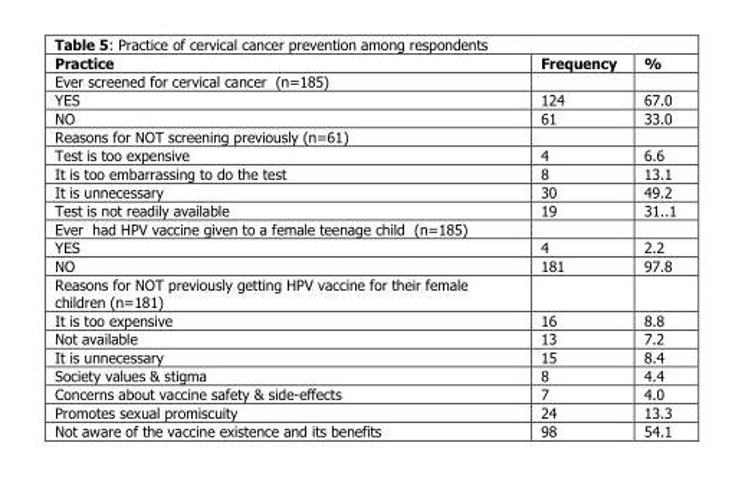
<table><thead><tr><td>Practice</td><td>Frequency</td><td>%</td></tr></thead><tbody><tr><td colspan="3">Ever screened for cervical cancer (n=185)</td></tr><tr><td>YES</td><td>124</td><td>67.0</td></tr><tr><td>NO</td><td>61</td><td>33.0</td></tr><tr><td colspan="3">Reasons for NOT screening previously (n=61)</td></tr><tr><td>Test is too expensive</td><td>4</td><td>6.6</td></tr><tr><td>It is too embarrassing to do the test</td><td>8</td><td>13.1</td></tr><tr><td>It is unnecessary</td><td>30</td><td>49.2</td></tr><tr><td>Test is not readily available</td><td>19</td><td>31..1</td></tr><tr><td colspan="3">Ever had HPV vaccine given to a female teenage child (n=185)</td></tr><tr><td>YES</td><td>4</td><td>2.2</td></tr><tr><td>NO</td><td>181</td><td>97.8</td></tr><tr><td colspan="3">Reasons for NOT previously getting HPV vaccine for their female children (n=181)</td></tr><tr><td>It is too expensive</td><td>16</td><td>8.8</td></tr><tr><td>Not available</td><td>13</td><td>7.2</td></tr><tr><td>It is unnecessary</td><td>15</td><td>8.4</td></tr><tr><td>Society values &amp; stigma</td><td>8</td><td>4.4</td></tr><tr><td>Concerns about vaccine safety &amp; side-effects</td><td>7</td><td>4.0</td></tr><tr><td>Promotes sexual promiscuity</td><td>24</td><td>13.3</td></tr><tr><td>Not aware of the vaccine existence and its benefits</td><td>98</td><td>54.1</td></tr></tbody></table>